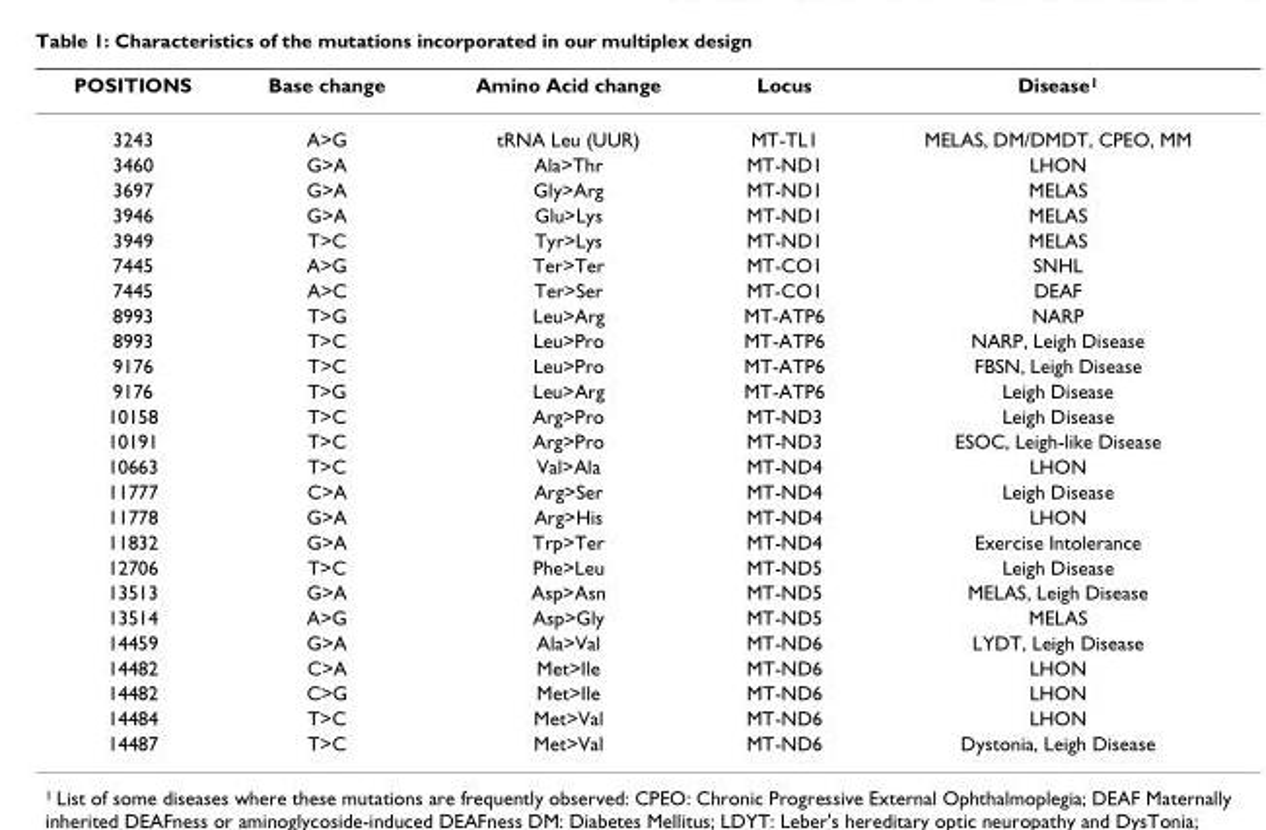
<table><thead><tr><td>POSITIONS</td><td>Base change</td><td>Amino Acid change</td><td>Locus</td><td>Disease<sup>1</sup></td></tr></thead><tbody><tr><td>3243</td><td>A&gt;G</td><td>tRNA Leu (UUR)</td><td>MT-TL1</td><td>MELAS, DM/DMDT, CPEO, MM</td></tr><tr><td>3460</td><td>G&gt;A</td><td>Ala&gt;Thr</td><td>MT-ND1</td><td>LHON</td></tr><tr><td>3697</td><td>G&gt;A</td><td>Gly&gt;Arg</td><td>MT-ND1</td><td>MELAS</td></tr><tr><td>3946</td><td>G&gt;A</td><td>Glu&gt;Lys</td><td>MT-ND1</td><td>MELAS</td></tr><tr><td>3949</td><td>T&gt;C</td><td>Tyr&gt;Lys</td><td>MT-ND1</td><td>MELAS</td></tr><tr><td>7445</td><td>A&gt;G</td><td>Ter&gt;Ter</td><td>MT-CO1</td><td>SNHL</td></tr><tr><td>7445</td><td>A&gt;C</td><td>Ter&gt;Ser</td><td>MT-CO1</td><td>DEAF</td></tr><tr><td>8993</td><td>T&gt;G</td><td>Leu&gt;Arg</td><td>MT-ATP6</td><td>NARP</td></tr><tr><td>8993</td><td>T&gt;C</td><td>Leu&gt;Pro</td><td>MT-ATP6</td><td>NARP, Leigh Disease</td></tr><tr><td>9176</td><td>T&gt;C</td><td>Leu&gt;Pro</td><td>MT-ATP6</td><td>FBSN, Leigh Disease</td></tr><tr><td>9176</td><td>T&gt;G</td><td>Leu&gt;Arg</td><td>MT-ATP6</td><td>Leigh Disease</td></tr><tr><td>10158</td><td>T&gt;C</td><td>Arg&gt;Pro</td><td>MT-ND3</td><td>Leigh Disease</td></tr><tr><td>10191</td><td>T&gt;C</td><td>Arg&gt;Pro</td><td>MT-ND3</td><td>ESOC, Leigh-like Disease</td></tr><tr><td>10663</td><td>T&gt;C</td><td>Val&gt;Ala</td><td>MT-ND4</td><td>LHON</td></tr><tr><td>11777</td><td>C&gt;A</td><td>Arg&gt;Ser</td><td>MT-ND4</td><td>Leigh Disease</td></tr><tr><td>11778</td><td>G&gt;A</td><td>Arg&gt;His</td><td>MT-ND4</td><td>LHON</td></tr><tr><td>11832</td><td>G&gt;A</td><td>Trp&gt;Ter</td><td>MT-ND4</td><td>Exercise Intolerance</td></tr><tr><td>12706</td><td>T&gt;C</td><td>Phe&gt;Leu</td><td>MT-ND5</td><td>Leigh Disease</td></tr><tr><td>13513</td><td>G&gt;A</td><td>Asp&gt;Asn</td><td>MT-ND5</td><td>MELAS, Leigh Disease</td></tr><tr><td>13514</td><td>A&gt;G</td><td>Asp&gt;Gly</td><td>MT-ND5</td><td>MELAS</td></tr><tr><td>14459</td><td>G&gt;A</td><td>Ala&gt;Val</td><td>MT-ND6</td><td>LYDT, Leigh Disease</td></tr><tr><td>14482</td><td>C&gt;A</td><td>Met&gt;Ile</td><td>MT-ND6</td><td>LHON</td></tr><tr><td>14482</td><td>C&gt;G</td><td>Met&gt;Ile</td><td>MT-ND6</td><td>LHON</td></tr><tr><td>14484</td><td>T&gt;C</td><td>Met&gt;Val</td><td>MT-ND6</td><td>LHON</td></tr><tr><td>14487</td><td>T&gt;C</td><td>Met&gt;Val</td><td>MT-ND6</td><td>Dystonia, Leigh Disease</td></tr></tbody></table>